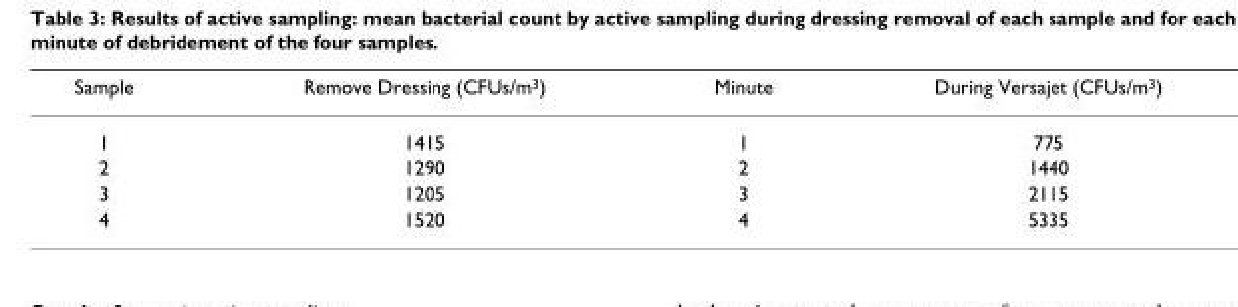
<table><thead><tr><td>Sample</td><td>Remove Dressing (CFUs/m<sup>3</sup>)</td><td>Minute</td><td>During Versajet (CFUs/m<sup>3</sup>)</td></tr></thead><tbody><tr><td>1</td><td>1415</td><td>1</td><td>775</td></tr><tr><td>2</td><td>1290</td><td>2</td><td>1440</td></tr><tr><td>3</td><td>1205</td><td>3</td><td>2115</td></tr><tr><td>4</td><td>1520</td><td>4</td><td>5335</td></tr></tbody></table>